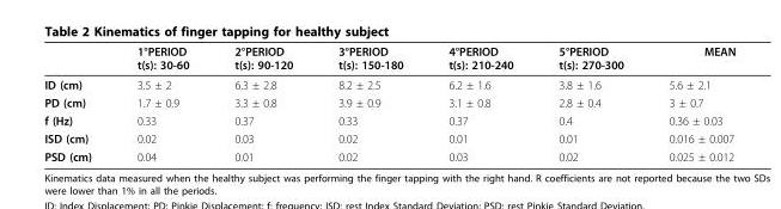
<table><thead><tr><td></td><td>1°PERIOD t(s): 30-60</td><td>2°PERIOD t(s): 90-120</td><td>3°PERIOD t(s): 150-180</td><td>4°PERIOD t(s): 210-240</td><td>5°PERIOD t(s): 270-300</td><td>MEAN</td></tr></thead><tbody><tr><td>ID (cm)</td><td>3.5 ± 2</td><td>6.3 ± 2.8</td><td>8.2 ± 2.5</td><td>6.2 ± 1.6</td><td>3.8 ± 1.6</td><td>5.6 ± 2.1</td></tr><tr><td>PD (cm)</td><td>1.7 ± 0.9</td><td>3.3 ± 0.8</td><td>3.9 ± 0.9</td><td>3.1 ± 0.8</td><td>2.8 ± 0.4</td><td>3 ± 0.7</td></tr><tr><td>f (Hz)</td><td>0.33</td><td>0.37</td><td>0.33</td><td>0.37</td><td>0.4</td><td>0.36 ± 0.03</td></tr><tr><td>ISD (cm)</td><td>0.02</td><td>0.03</td><td>0.02</td><td>0.01</td><td>0.01</td><td>0.016 ± 0.007</td></tr><tr><td>PSD (cm)</td><td>0.04</td><td>0.01</td><td>0.02</td><td>0.03</td><td>0.02</td><td>0.025 ± 0.012</td></tr></tbody></table>